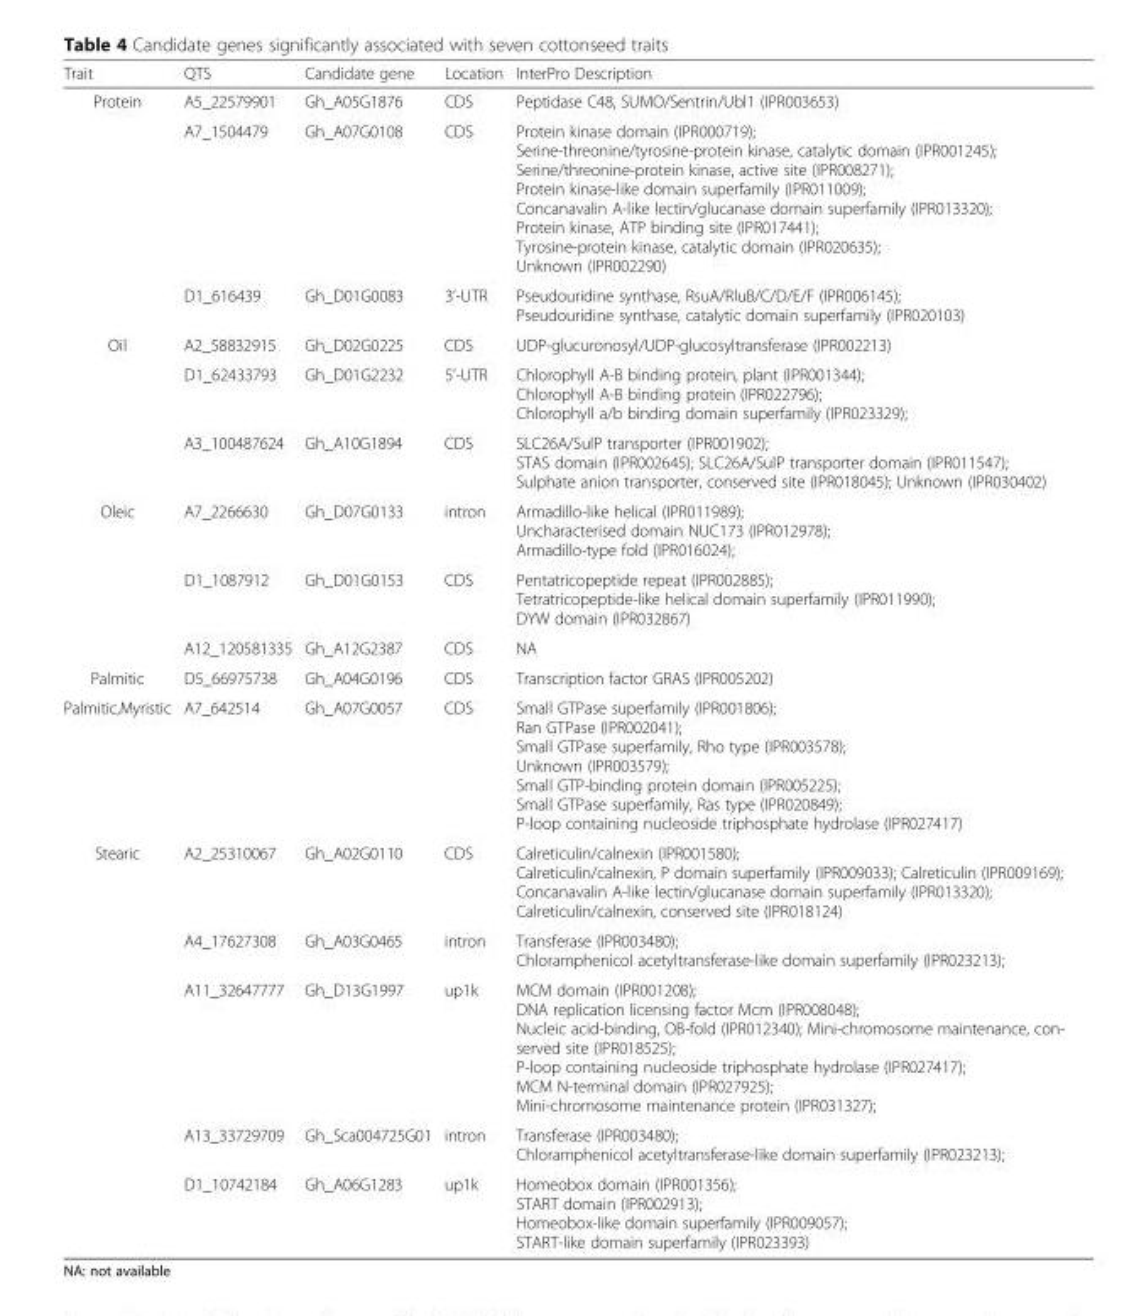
<table><thead><tr><td>Trait</td><td>QTS</td><td>Candidate gene</td><td>Location</td><td>InterPro Description</td></tr></thead><tbody><tr><td rowspan="3">Protein</td><td>A5_22579901</td><td>Gh_A05G1876</td><td>CDS</td><td>Peptidase C48, SUMO/Sentrin/Ubl1 (IPR003653)</td></tr><tr><td>A7_1504479</td><td>Gh_A07G0108</td><td>CDS</td><td>Protein kinase domain (IPR000719); Serine-threonine/tyrosine-protein kinase, catalytic domain (IPR001245); Serine/threonine-protein kinase, active site (IPR008271); Protein kinase-like domain superfamily (IPR011009); Concanavalin A-like lectin/glucanase domain superfamily (IPR013320); Protein kinase, ATP binding site (IPR017441); Tyrosine-protein kinase, catalytic domain (IPR020635); Unknown (IPR002290)</td></tr><tr><td>D1_616439</td><td>Gh_D01G0083</td><td>3’-UTR</td><td>Pseudouridine synthase, RsuA/RluB/C/D/E/F (IPR006145); Pseudouridine synthase, catalytic domain superfamily (IPR020103)</td></tr><tr><td rowspan="3">Oil</td><td>A2_58832915</td><td>Gh_D02G0225</td><td>CDS</td><td>UDP-glucuronosyl/UDP-glucosyltransferase (IPR002213)</td></tr><tr><td>D1_62433793</td><td>Gh_D01G2232</td><td>5’-UTR</td><td>Chlorophyll A-B binding protein, plant (IPR001344); Chlorophyll A-B binding protein (IPR022796); Chlorophyll a/b binding domain superfamily (IPR023329);</td></tr><tr><td>A3_100487624</td><td>Gh_A10G1894</td><td>CDS</td><td>SLC26A/SulP transporter (IPR001902); STAS domain (IPR002645); SLC26A/SulP transporter domain (IPR011547); Sulphate anion transporter, conserved site (IPR018045); Unknown (IPR030402)</td></tr><tr><td rowspan="3">Oleic</td><td>A7_2266630</td><td>Gh_D07G0133</td><td>intron</td><td>Armadillo-like helical (IPR011989); Uncharacterised domain NUC173 (IPR012978); Armadillo-type fold (IPR016024);</td></tr><tr><td>D1_1087912</td><td>Gh_D01G0153</td><td>CDS</td><td>Pentatricopeptide repeat (IPR002885); Tetratricopeptide-like helical domain superfamily (IPR011990); DYW domain (IPR032867)</td></tr><tr><td>A12_120581335</td><td>Gh_A12G2387</td><td>CDS</td><td>NA</td></tr><tr><td>Palmitic</td><td>D5_66975738</td><td>Gh_A04G0196</td><td>CDS</td><td>Transcription factor GRAS (IPR005202)</td></tr><tr><td>Palmitic,Myristic</td><td>A7_642514</td><td>Gh_A07G0057</td><td>CDS</td><td>Small GTPase superfamily (IPR001806); Ran GTPase (IPR002041); Small GTPase superfamily, Rho type (IPR003578); Unknown (IPR003579); Small GTP-binding protein domain (IPR005225); Small GTPase superfamily, Ras type (IPR020849); P-loop containing nucleoside triphosphate hydrolase (IPR027417)</td></tr><tr><td rowspan="5">Stearic</td><td>A2_25310067</td><td>Gh_A02G0110</td><td>CDS</td><td>Calreticulin/calnexin (IPR001580); Calreticulin/calnexin, P domain superfamily (IPR009033); Calreticulin (IPR009169); Concanavalin A-like lectin/glucanase domain superfamily (IPR013320); Calreticulin/calnexin, conserved site (IPR018124)</td></tr><tr><td>A4_17627308</td><td>Gh_A03G0465</td><td>intron</td><td>Transferase (IPR003480); Chloramphenicol acetyltransferase-like domain superfamily (IPR023213);</td></tr><tr><td>A11_32647777</td><td>Gh_D13G1997</td><td>up1k</td><td>MCM domain (IPR001208); DNA replication licensing factor Mcm (IPR008048); Nucleic acid-binding, OB-fold (IPR012340); Mini-chromosome maintenance, con- served site (IPR018525); P-loop containing nucleoside triphosphate hydrolase (IPR027417); MCM N-terminal domain (IPR027925); Mini-chromosome maintenance protein (IPR031327);</td></tr><tr><td>A13_33729709</td><td>Gh_Sca004725G01</td><td>intron</td><td>Transferase (IPR003480); Chloramphenicol acetyltransferase-like domain superfamily (IPR023213);</td></tr><tr><td>D1_10742184</td><td>Gh_A06G1283</td><td>up1k</td><td>Homeobox domain (IPR001356); START domain (IPR002913); Homeobox-like domain superfamily (IPR009057); START-like domain superfamily (IPR023393)</td></tr></tbody></table>